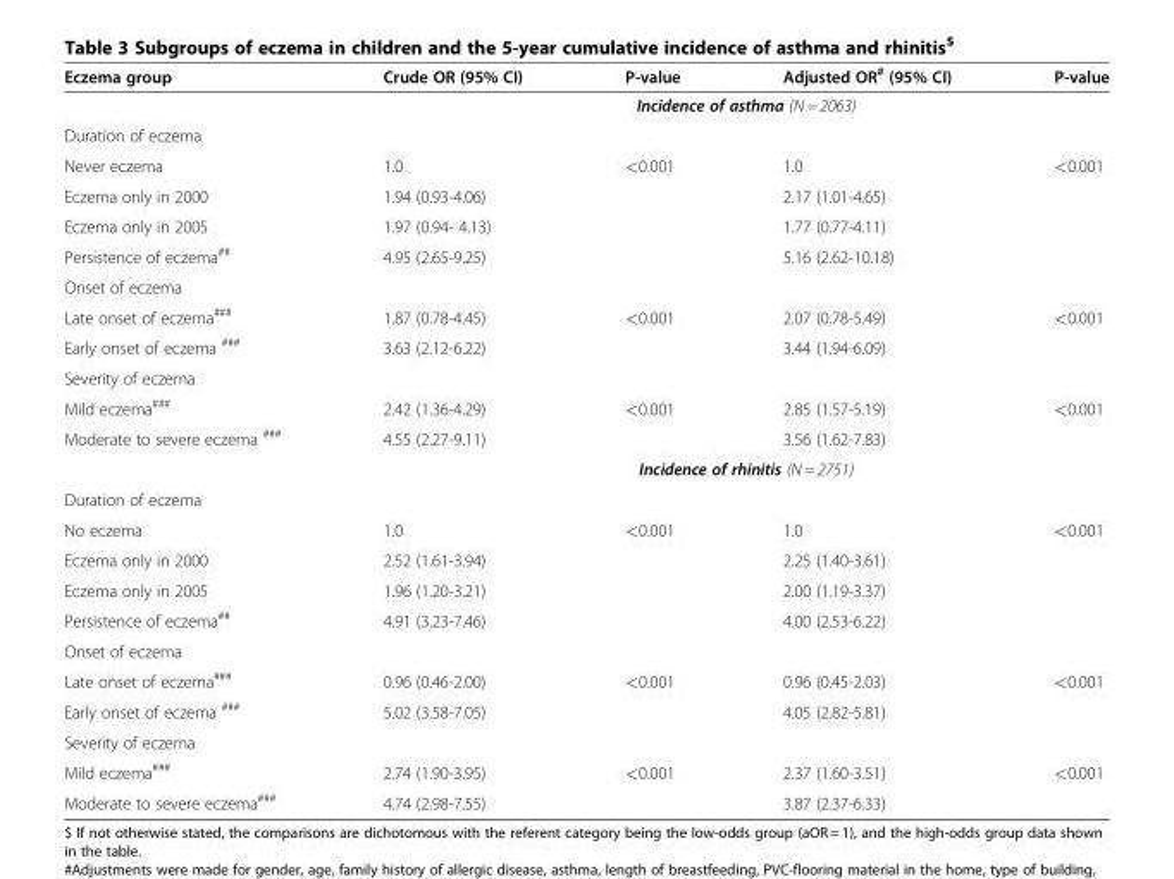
<table><thead><tr><td>Eczema group</td><td>Crude OR (95% CI)</td><td>P-value</td><td>Adjusted OR<sup>#</sup> (95% CI)</td><td>P-value</td></tr></thead><tbody><tr><td></td><td colspan="4">Incidence of asthma (N = 2063)</td></tr><tr><td colspan="5">Duration of eczema</td></tr><tr><td>Never eczema</td><td>1.0</td><td>&lt;0.001</td><td>1.0</td><td>&lt;0.001</td></tr><tr><td>Eczema only in 2000</td><td>1.94 (0.93-4.06)</td><td></td><td>2.17 (1.01-4.65)</td><td></td></tr><tr><td>Eczema only in 2005</td><td>1.97 (0.94- 4.13)</td><td></td><td>1.77 (0.77-4.11)</td><td></td></tr><tr><td>Persistence of eczema<sup>##</sup></td><td>4.95 (2.65-9.25)</td><td></td><td>5.16 (2.62-10.18)</td><td></td></tr><tr><td colspan="5">Onset of eczema</td></tr><tr><td>Late onset of eczema<sup>###</sup></td><td>1.87 (0.78-4.45)</td><td>&lt;0.001</td><td>2.07 (0.78-5.49)</td><td>&lt;0.001</td></tr><tr><td>Early onset of eczema <sup>###</sup></td><td>3.63 (2.12-6.22)</td><td></td><td>3.44 (1.94-6.09)</td><td></td></tr><tr><td colspan="5">Severity of eczema</td></tr><tr><td>Mild eczema<sup>###</sup></td><td>2.42 (1.36-4.29)</td><td>&lt;0.001</td><td>2.85 (1.57-5.19)</td><td>&lt;0.001</td></tr><tr><td rowspan="2">Moderate to severe eczema <sup>###</sup></td><td>4.55 (2.27-9.11)</td><td></td><td>3.56 (1.62-7.83)</td><td></td></tr><tr><td colspan="4">Incidence of rhinitis (N = 2751)</td></tr><tr><td colspan="5">Duration of eczema</td></tr><tr><td>No eczema</td><td>1.0</td><td>&lt;0.001</td><td>1.0</td><td>&lt;0.001</td></tr><tr><td>Eczema only in 2000</td><td>2.52 (1.61-3.94)</td><td></td><td>2.25 (1.40-3.61)</td><td></td></tr><tr><td>Eczema only in 2005</td><td>1.96 (1.20-3.21)</td><td></td><td>2.00 (1.19-3.37)</td><td></td></tr><tr><td>Persistence of eczema<sup>##</sup></td><td>4.91 (3.23-7.46)</td><td></td><td>4.00 (2.53-6.22)</td><td></td></tr><tr><td colspan="5">Onset of eczema</td></tr><tr><td>Late onset of eczema<sup>###</sup></td><td>0.96 (0.46-2.00)</td><td>&lt;0.001</td><td>0.96 (0.45-2.03)</td><td>&lt;0.001</td></tr><tr><td>Early onset of eczema <sup>###</sup></td><td>5.02 (3.58-7.05)</td><td></td><td>4.05 (2.82-5.81)</td><td></td></tr><tr><td colspan="5">Severity of eczema</td></tr><tr><td>Mild eczema<sup>###</sup></td><td>2.74 (1.90-3.95)</td><td>&lt;0.001</td><td>2.37 (1.60-3.51)</td><td>&lt;0.001</td></tr><tr><td>Moderate to severe eczema<sup>###</sup></td><td>4.74 (2.98-7.55)</td><td></td><td>3.87 (2.37-6.33)</td><td></td></tr></tbody></table>